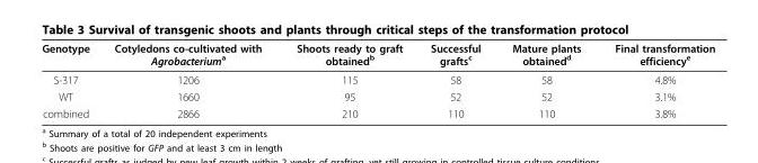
<table><thead><tr><td>Genotype</td><td>Cotyledons co-cultivated with Agrobacterium<sup>a</sup></td><td>Shoots ready to graft obtained<sup>b</sup></td><td>Successful grafts<sup>c</sup></td><td>Mature plants obtained<sup>d</sup></td><td>Final transformation efficiency<sup>e</sup></td></tr></thead><tbody><tr><td>S-317</td><td>1206</td><td>115</td><td>58</td><td>58</td><td>4.8%</td></tr><tr><td>WT</td><td>1660</td><td>95</td><td>52</td><td>52</td><td>3.1%</td></tr><tr><td>combined</td><td>2866</td><td>210</td><td>110</td><td>110</td><td>3.8%</td></tr></tbody></table>